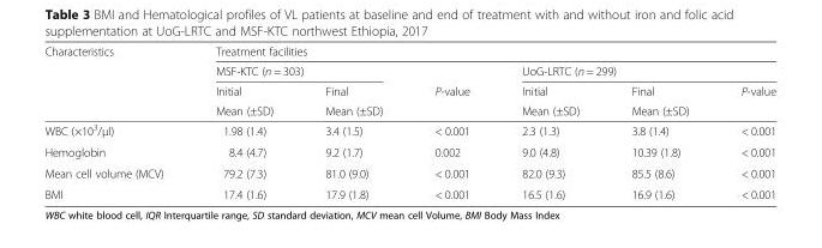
<table><thead><tr><td rowspan="4">Characteristics</td><td colspan="6">Treatment facilities</td></tr><tr><td colspan="2">MSF-KTC (n = 303)</td><td rowspan="3">P-value</td><td colspan="3">UoG-LRTC (n = 299)</td></tr><tr><td rowspan="2">Initial Mean (±SD)</td><td rowspan="2">Final Mean (±SD)</td><td rowspan="2">Initial Mean (±SD)</td><td rowspan="2">Final Mean (±SD)</td><td rowspan="2">P-value</td></tr><tr></tr></thead><tbody><tr><td>WBC (×10<sup>3</sup>/μl)</td><td>1.98 (1.4)</td><td>3.4 (1.5)</td><td>&lt; 0.001</td><td>2.3 (1.3)</td><td>3.8 (1.4)</td><td>&lt; 0.001</td></tr><tr><td>Hemoglobin</td><td>8.4 (4.7)</td><td>9.2 (1.7)</td><td>0.002</td><td>9.0 (4.8)</td><td>10.39 (1.8)</td><td>&lt; 0.001</td></tr><tr><td>Mean cell volume (MCV)</td><td>79.2 (7.3)</td><td>81.0 (9.0)</td><td>&lt; 0.001</td><td>82.0 (9.3)</td><td>85.5 (8.6)</td><td>&lt; 0.001</td></tr><tr><td>BMI</td><td>17.4 (1.6)</td><td>17.9 (1.8)</td><td>&lt; 0.001</td><td>16.5 (1.6)</td><td>16.9 (1.6)</td><td>&lt; 0.001</td></tr></tbody></table>